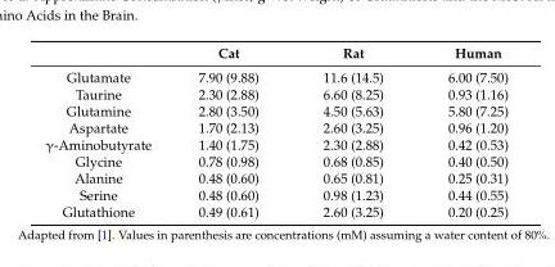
<table><thead><tr><td></td><td>Cat</td><td>Rat</td><td>Human</td></tr></thead><tbody><tr><td>Glutamate</td><td>7.90 (9.88)</td><td>11.6 (14.5)</td><td>6.00 (7.50)</td></tr><tr><td>Taurine</td><td>2.30 (2.88)</td><td>6.60 (8.25)</td><td>0.93 (1.16)</td></tr><tr><td>Glutamine</td><td>2.80 (3.50)</td><td>4.50 (5.63)</td><td>5.80 (7.25)</td></tr><tr><td>Aspartate</td><td>1.70 (2.13)</td><td>2.60 (3.25)</td><td>0.96 (1.20)</td></tr><tr><td>γ-Aminobutyrate</td><td>1.40 (1.75)</td><td>2.30 (2.88)</td><td>0.42 (0.53)</td></tr><tr><td>Glycine</td><td>0.78 (0.98)</td><td>0.68 (0.85)</td><td>0.40 (0.50)</td></tr><tr><td>Alanine</td><td>0.48 (0.60)</td><td>0.65 (0.81)</td><td>0.25 (0.31)</td></tr><tr><td>Serine</td><td>0.48 (0.60)</td><td>0.98 (1.23)</td><td>0.44 (0.55)</td></tr><tr><td>Glutathione</td><td>0.49 (0.61)</td><td>2.60 (3.25)</td><td>0.20 (0.25)</td></tr></tbody></table>